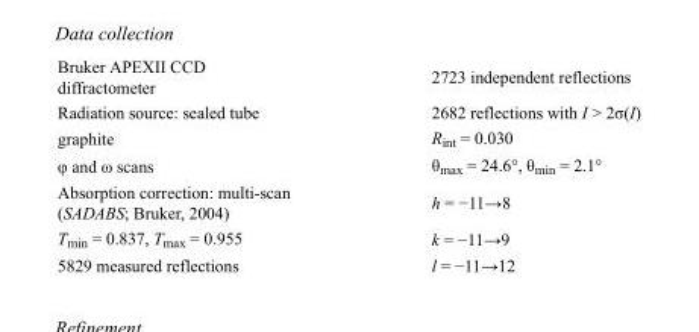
<table><tbody><tr><td>Bruker APEXII CCD diffractometer</td><td>2723 independent reflections</td></tr><tr><td>Radiation source: sealed tube</td><td>2682 reflections with I &gt; 2σ(I)</td></tr><tr><td>graphite</td><td>R<sub>int</sub> = 0.030</td></tr><tr><td>φ and ω scans</td><td>θ<sub>max</sub> = 24.6°, θ<sub>min</sub> = 2.1°</td></tr><tr><td>Absorption correction: multi-scan (SADABS; Bruker, 2004)</td><td>h = −11→8</td></tr><tr><td>T<sub>min</sub> = 0.837, T<sub>max</sub> = 0.955</td><td>k = −11→9</td></tr><tr><td>5829 measured reflections</td><td>l = −11→12</td></tr></tbody></table>